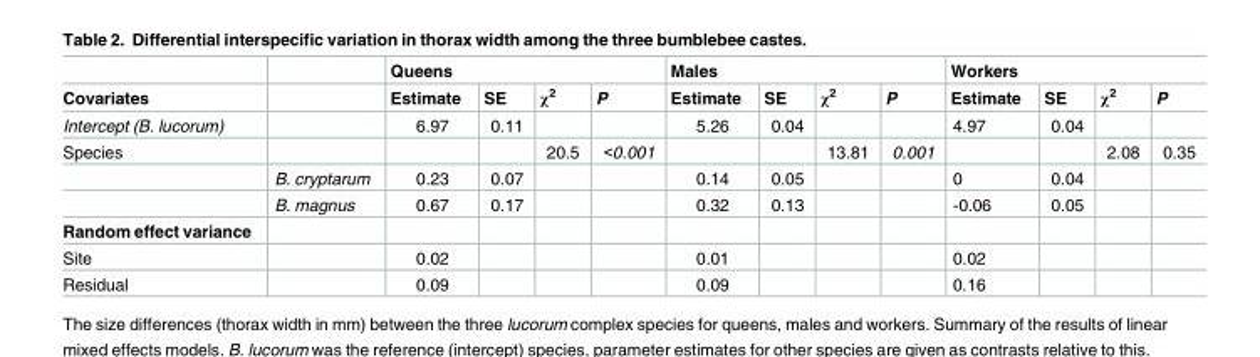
<table><thead><tr><td rowspan="2">Covariates</td><td rowspan="2"></td><td colspan="4">Queens</td><td colspan="4">Males</td><td colspan="4">Workers</td></tr><tr><td>Estimate</td><td>SE</td><td>χ<sup>2</sup></td><td>P</td><td>Estimate</td><td>SE</td><td>χ<sup>2</sup></td><td>P</td><td>Estimate</td><td>SE</td><td>χ<sup>2</sup></td><td>P</td></tr></thead><tbody><tr><td>Intercept (B. lucorum)</td><td></td><td>6.97</td><td>0.11</td><td></td><td></td><td>5.26</td><td>0.04</td><td></td><td></td><td>4.97</td><td>0.04</td><td></td><td></td></tr><tr><td rowspan="3">Species</td><td></td><td></td><td></td><td>20.5</td><td>&lt;0.001</td><td></td><td></td><td>13.81</td><td>0.001</td><td></td><td></td><td>2.08</td><td>0.35</td></tr><tr><td>B. cryptarum</td><td>0.23</td><td>0.07</td><td></td><td></td><td>0.14</td><td>0.05</td><td></td><td></td><td>0</td><td>0.04</td><td></td><td></td></tr><tr><td>B. magnus</td><td>0.67</td><td>0.17</td><td></td><td></td><td>0.32</td><td>0.13</td><td></td><td></td><td>-0.06</td><td>0.05</td><td></td><td></td></tr><tr><td colspan="14">Random effect variance</td></tr><tr><td>Site</td><td></td><td>0.02</td><td></td><td></td><td></td><td>0.01</td><td></td><td></td><td></td><td>0.02</td><td></td><td></td><td></td></tr><tr><td>Residual</td><td></td><td>0.09</td><td></td><td></td><td></td><td>0.09</td><td></td><td></td><td></td><td>0.16</td><td></td><td></td><td></td></tr></tbody></table>